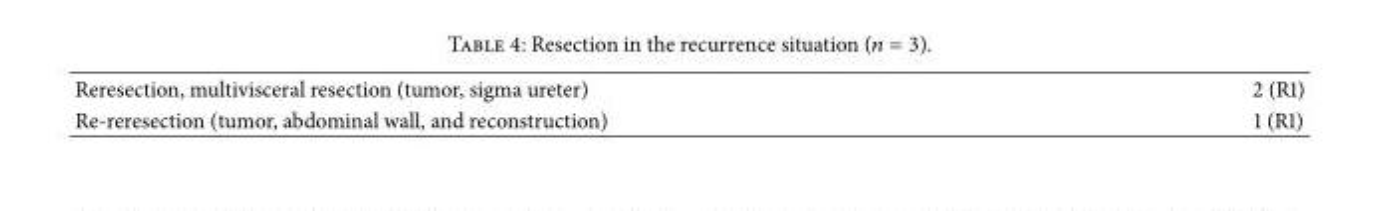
<table><tbody><tr><td>Reresection, multivisceral resection (tumor, sigma ureter)</td><td>2 (R1)</td></tr><tr><td>Re-reresection (tumor, abdominal wall, and reconstruction)</td><td>1 (R1)</td></tr></tbody></table>